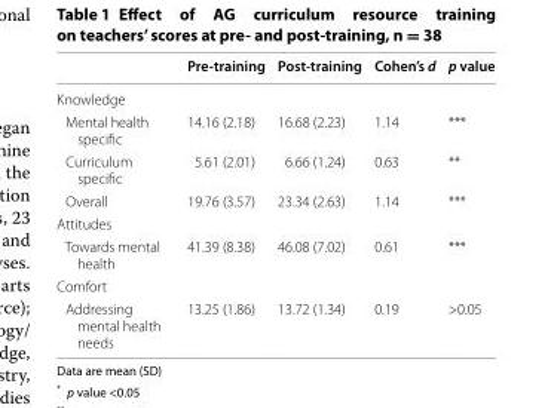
<table><thead><tr><td></td><td>Pre-training</td><td>Post-training</td><td>Cohen’s d</td><td>p value</td></tr></thead><tbody><tr><td colspan="5">Knowledge</td></tr><tr><td>Mental health specific</td><td>14.16 (2.18)</td><td>16.68 (2.23)</td><td>1.14</td><td>***</td></tr><tr><td>Curriculum specific</td><td>5.61 (2.01)</td><td>6.66 (1.24)</td><td>0.63</td><td>**</td></tr><tr><td>Overall</td><td>19.76 (3.57)</td><td>23.34 (2.63)</td><td>1.14</td><td>***</td></tr><tr><td colspan="5">Attitudes</td></tr><tr><td>Towards mental health</td><td>41.39 (8.38)</td><td>46.08 (7.02)</td><td>0.61</td><td>***</td></tr><tr><td colspan="5">Comfort</td></tr><tr><td>Addressing mental health needs</td><td>13.25 (1.86)</td><td>13.72 (1.34)</td><td>0.19</td><td>&gt;0.05</td></tr></tbody></table>